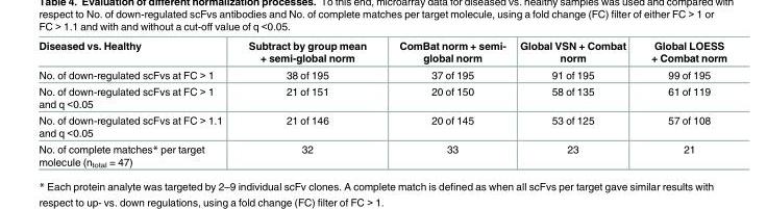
<table><thead><tr><td>Diseased vs. Healthy</td><td>Subtract by group mean + semi-global norm</td><td>ComBat norm + semi- global norm</td><td>Global VSN + Combat norm</td><td>Global LOESS + Combat norm</td></tr></thead><tbody><tr><td>No. of down-regulated scFvs at FC &gt; 1</td><td>38 of 195</td><td>37 of 195</td><td>91 of 195</td><td>99 of 195</td></tr><tr><td>No. of down-regulated scFvs at FC &gt; 1 and q &lt;0.05</td><td>21 of 151</td><td>20 of 150</td><td>58 of 135</td><td>61 of 119</td></tr><tr><td>No. of down-regulated scFvs at FC &gt; 1.1 and q &lt;0.05</td><td>21 of 146</td><td>20 of 145</td><td>53 of 125</td><td>57 of 108</td></tr><tr><td>No. of complete matches* per target molecule (n<sub>total</sub> = 47)</td><td>32</td><td>33</td><td>23</td><td>21</td></tr></tbody></table>